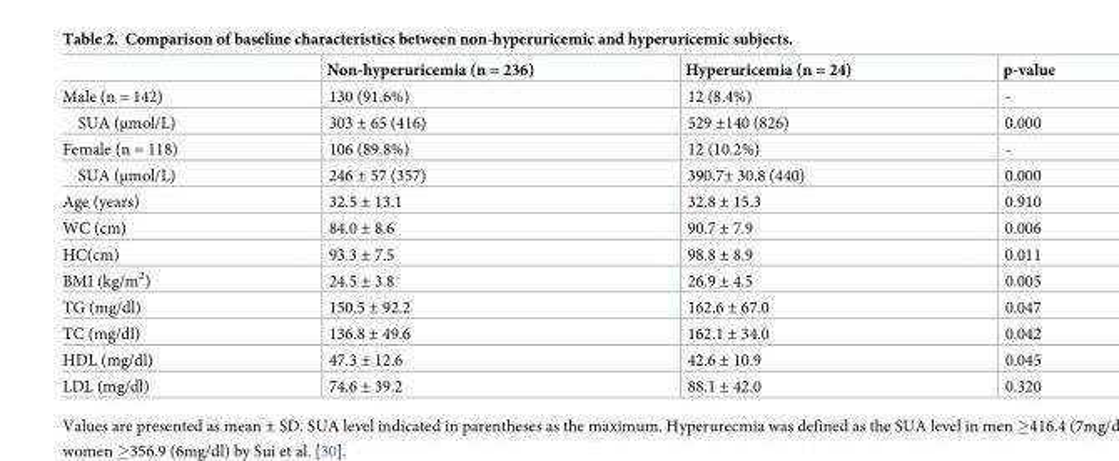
<table><thead><tr><td></td><td>Non-hyperuricemia (n = 236)</td><td>Hyperuricemia (n = 24)</td><td>p-value</td></tr></thead><tbody><tr><td>Male (n = 142)</td><td>130 (91.6%)</td><td>12 (8.4%)</td><td>-</td></tr><tr><td>SUA (μmol/L)</td><td>303 ± 65 (416)</td><td>529 ±140 (826)</td><td>0.000</td></tr><tr><td>Female (n = 118)</td><td>106 (89.8%)</td><td>12 (10.2%)</td><td>-</td></tr><tr><td>SUA (μmol/L)</td><td>246 ± 57 (357)</td><td>390.7± 30.8 (440)</td><td>0.000</td></tr><tr><td>Age (years)</td><td>32.5 ± 13.1</td><td>32.8 ± 15.3</td><td>0.910</td></tr><tr><td>WC (cm)</td><td>84.0 ± 8.6</td><td>90.7 ± 7.9</td><td>0.006</td></tr><tr><td>HC(cm)</td><td>93.3 ± 7.5</td><td>98.8 ± 8.9</td><td>0.011</td></tr><tr><td>BMI (kg/m<sup>2</sup>)</td><td>24.5 ± 3.8</td><td>26.9 ± 4.5</td><td>0.005</td></tr><tr><td>TG (mg/dl)</td><td>150.5 ± 92.2</td><td>162.6 ± 67.0</td><td>0.047</td></tr><tr><td>TC (mg/dl)</td><td>136.8 ± 49.6</td><td>162.1 ± 34.0</td><td>0.042</td></tr><tr><td>HDL (mg/dl)</td><td>47.3 ± 12.6</td><td>42.6 ± 10.9</td><td>0.045</td></tr><tr><td>LDL (mg/dl)</td><td>74.6 ± 39.2</td><td>88.1 ± 42.0</td><td>0.320</td></tr></tbody></table>